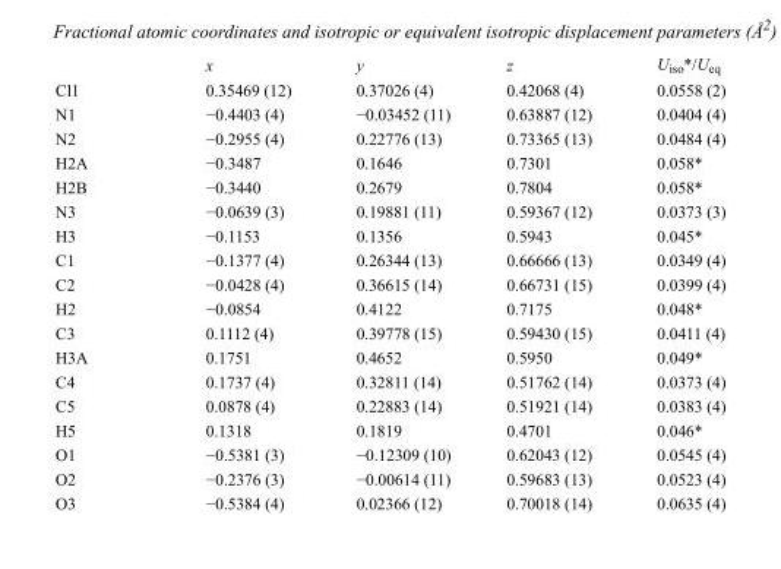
<table><thead><tr><td></td><td>x</td><td>y</td><td>z</td><td>U<sub>iso</sub>*/U<sub>eq</sub></td></tr></thead><tbody><tr><td>Cl1</td><td>0.35469 (12)</td><td>0.37026 (4)</td><td>0.42068 (4)</td><td>0.0558 (2)</td></tr><tr><td>N1</td><td>−0.4403 (4)</td><td>−0.03452 (11)</td><td>0.63887 (12)</td><td>0.0404 (4)</td></tr><tr><td>N2</td><td>−0.2955 (4)</td><td>0.22776 (13)</td><td>0.73365 (13)</td><td>0.0484 (4)</td></tr><tr><td>H2A</td><td>−0.3487</td><td>0.1646</td><td>0.7301</td><td>0.058*</td></tr><tr><td>H2B</td><td>−0.3440</td><td>0.2679</td><td>0.7804</td><td>0.058*</td></tr><tr><td>N3</td><td>−0.0639 (3)</td><td>0.19881 (11)</td><td>0.59367 (12)</td><td>0.0373 (3)</td></tr><tr><td>H3</td><td>−0.1153</td><td>0.1356</td><td>0.5943</td><td>0.045*</td></tr><tr><td>C1</td><td>−0.1377 (4)</td><td>0.26344 (13)</td><td>0.66666 (13)</td><td>0.0349 (4)</td></tr><tr><td>C2</td><td>−0.0428 (4)</td><td>0.36615 (14)</td><td>0.66731 (15)</td><td>0.0399 (4)</td></tr><tr><td>H2</td><td>−0.0854</td><td>0.4122</td><td>0.7175</td><td>0.048*</td></tr><tr><td>C3</td><td>0.1112 (4)</td><td>0.39778 (15)</td><td>0.59430 (15)</td><td>0.0411 (4)</td></tr><tr><td>H3A</td><td>0.1751</td><td>0.4652</td><td>0.5950</td><td>0.049*</td></tr><tr><td>C4</td><td>0.1737 (4)</td><td>0.32811 (14)</td><td>0.51762 (14)</td><td>0.0373 (4)</td></tr><tr><td>C5</td><td>0.0878 (4)</td><td>0.22883 (14)</td><td>0.51921 (14)</td><td>0.0383 (4)</td></tr><tr><td>H5</td><td>0.1318</td><td>0.1819</td><td>0.4701</td><td>0.046*</td></tr><tr><td>O1</td><td>−0.5381 (3)</td><td>−0.12309 (10)</td><td>0.62043 (12)</td><td>0.0545 (4)</td></tr><tr><td>O2</td><td>−0.2376 (3)</td><td>−0.00614 (11)</td><td>0.59683 (13)</td><td>0.0523 (4)</td></tr><tr><td>O3</td><td>−0.5384 (4)</td><td>0.02366 (12)</td><td>0.70018 (14)</td><td>0.0635 (4)</td></tr></tbody></table>